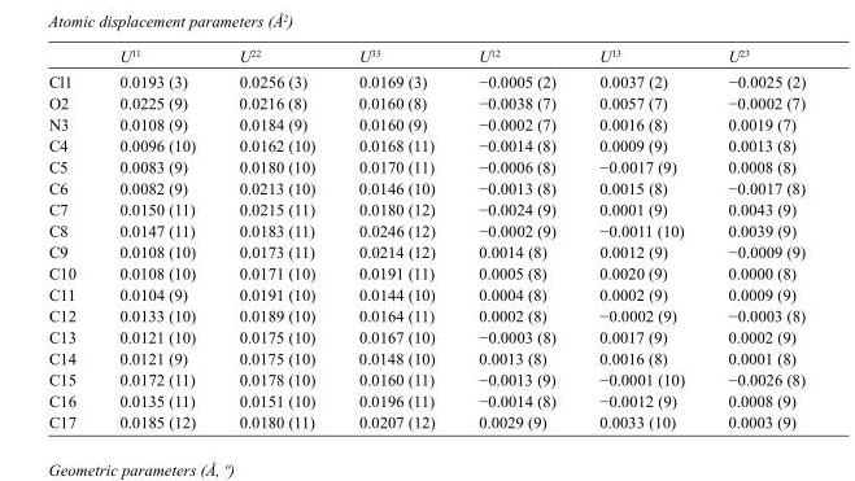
<table><thead><tr><td></td><td>U<sup>11</sup></td><td>U<sup>22</sup></td><td>U<sup>33</sup></td><td>U<sup>12</sup></td><td>U<sup>13</sup></td><td>U<sup>23</sup></td></tr></thead><tbody><tr><td>Cl1</td><td>0.0193 (3)</td><td>0.0256 (3)</td><td>0.0169 (3)</td><td>−0.0005 (2)</td><td>0.0037 (2)</td><td>−0.0025 (2)</td></tr><tr><td>O2</td><td>0.0225 (9)</td><td>0.0216 (8)</td><td>0.0160 (8)</td><td>−0.0038 (7)</td><td>0.0057 (7)</td><td>−0.0002 (7)</td></tr><tr><td>N3</td><td>0.0108 (9)</td><td>0.0184 (9)</td><td>0.0160 (9)</td><td>−0.0002 (7)</td><td>0.0016 (8)</td><td>0.0019 (7)</td></tr><tr><td>C4</td><td>0.0096 (10)</td><td>0.0162 (10)</td><td>0.0168 (11)</td><td>−0.0014 (8)</td><td>0.0009 (9)</td><td>0.0013 (8)</td></tr><tr><td>C5</td><td>0.0083 (9)</td><td>0.0180 (10)</td><td>0.0170 (11)</td><td>−0.0006 (8)</td><td>−0.0017 (9)</td><td>0.0008 (8)</td></tr><tr><td>C6</td><td>0.0082 (9)</td><td>0.0213 (10)</td><td>0.0146 (10)</td><td>−0.0013 (8)</td><td>0.0015 (8)</td><td>−0.0017 (8)</td></tr><tr><td>C7</td><td>0.0150 (11)</td><td>0.0215 (11)</td><td>0.0180 (12)</td><td>−0.0024 (9)</td><td>0.0001 (9)</td><td>0.0043 (9)</td></tr><tr><td>C8</td><td>0.0147 (11)</td><td>0.0183 (11)</td><td>0.0246 (12)</td><td>−0.0002 (9)</td><td>−0.0011 (10)</td><td>0.0039 (9)</td></tr><tr><td>C9</td><td>0.0108 (10)</td><td>0.0173 (11)</td><td>0.0214 (12)</td><td>0.0014 (8)</td><td>0.0012 (9)</td><td>−0.0009 (9)</td></tr><tr><td>C10</td><td>0.0108 (10)</td><td>0.0171 (10)</td><td>0.0191 (11)</td><td>0.0005 (8)</td><td>0.0020 (9)</td><td>0.0000 (8)</td></tr><tr><td>C11</td><td>0.0104 (9)</td><td>0.0191 (10)</td><td>0.0144 (10)</td><td>0.0004 (8)</td><td>0.0002 (9)</td><td>0.0009 (9)</td></tr><tr><td>C12</td><td>0.0133 (10)</td><td>0.0189 (10)</td><td>0.0164 (11)</td><td>0.0002 (8)</td><td>−0.0002 (9)</td><td>−0.0003 (8)</td></tr><tr><td>C13</td><td>0.0121 (10)</td><td>0.0175 (10)</td><td>0.0167 (10)</td><td>−0.0003 (8)</td><td>0.0017 (9)</td><td>0.0002 (9)</td></tr><tr><td>C14</td><td>0.0121 (9)</td><td>0.0175 (10)</td><td>0.0148 (10)</td><td>0.0013 (8)</td><td>0.0016 (8)</td><td>0.0001 (8)</td></tr><tr><td>C15</td><td>0.0172 (11)</td><td>0.0178 (10)</td><td>0.0160 (11)</td><td>−0.0013 (9)</td><td>−0.0001 (10)</td><td>−0.0026 (8)</td></tr><tr><td>C16</td><td>0.0135 (11)</td><td>0.0151 (10)</td><td>0.0196 (11)</td><td>−0.0014 (8)</td><td>−0.0012 (9)</td><td>0.0008 (9)</td></tr><tr><td>C17</td><td>0.0185 (12)</td><td>0.0180 (11)</td><td>0.0207 (12)</td><td>0.0029 (9)</td><td>0.0033 (10)</td><td>0.0003 (9)</td></tr></tbody></table>